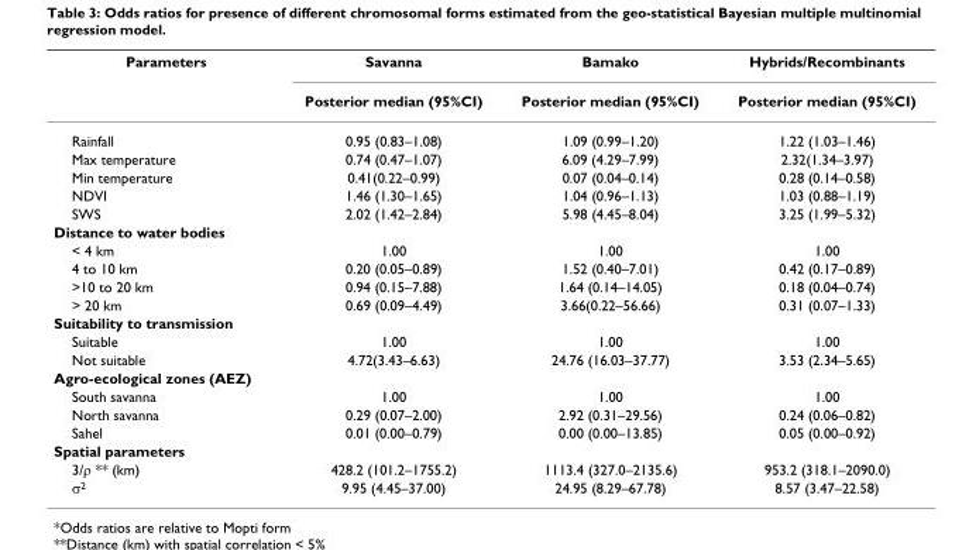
<table><thead><tr><td rowspan="2">Parameters</td><td rowspan="2">Savanna Posterior median (95%CI)</td><td rowspan="2">Bamako Posterior median (95%CI)</td><td rowspan="2">Hybrids/Recombinants Posterior median (95%CI)</td></tr><tr></tr></thead><tbody><tr><td>Rainfall</td><td>0.95 (0.83–1.08)</td><td>1.09 (0.99–1.20)</td><td>1.22 (1.03–1.46)</td></tr><tr><td>Max temperature</td><td>0.74 (0.47–1.07)</td><td>6.09 (4.29–7.99)</td><td>2.32(1.34–3.97)</td></tr><tr><td>Min temperature</td><td>0.41(0.22–0.99)</td><td>0.07 (0.04–0.14)</td><td>0.28 (0.14–0.58)</td></tr><tr><td>NDVI</td><td>1.46 (1.30–1.65)</td><td>1.04 (0.96–1.13)</td><td>1.03 (0.88–1.19)</td></tr><tr><td>SWS</td><td>2.02 (1.42–2.84)</td><td>5.98 (4.45–8.04)</td><td>3.25 (1.99–5.32)</td></tr><tr><td colspan="4">Distance to water bodies</td></tr><tr><td>&lt; 4 km</td><td>1.00</td><td>1.00</td><td>1.00</td></tr><tr><td>4 to 10 km</td><td>0.20 (0.05–0.89)</td><td>1.52 (0.40–7.01)</td><td>0.42 (0.17–0.89)</td></tr><tr><td>&gt;10 to 20 km</td><td>0.94 (0.15–7.88)</td><td>1.64 (0.14–14.05)</td><td>0.18 (0.04–0.74)</td></tr><tr><td>&gt; 20 km</td><td>0.69 (0.09–4.49)</td><td>3.66(0.22–56.66)</td><td>0.31 (0.07–1.33)</td></tr><tr><td colspan="4">Suitability to transmission</td></tr><tr><td>Suitable</td><td>1.00</td><td>1.00</td><td>1.00</td></tr><tr><td>Not suitable</td><td>4.72(3.43–6.63)</td><td>24.76 (16.03–37.77)</td><td>3.53 (2.34–5.65)</td></tr><tr><td colspan="4">Agro-ecological zones (AEZ)</td></tr><tr><td>South savanna</td><td>1.00</td><td>1.00</td><td>1.00</td></tr><tr><td>North savanna</td><td>0.29 (0.07–2.00)</td><td>2.92 (0.31–29.56)</td><td>0.24 (0.06–0.82)</td></tr><tr><td>Sahel</td><td>0.01 (0.00–0.79)</td><td>0.00 (0.00–13.85)</td><td>0.05 (0.00–0.92)</td></tr><tr><td colspan="4">Spatial parameters</td></tr><tr><td>3/ρ ** (km)</td><td>428.2 (101.2–1755.2)</td><td>1113.4 (327.0–2135.6)</td><td>953.2 (318.1–2090.0)</td></tr><tr><td>σ<sup>2</sup></td><td>9.95 (4.45–37.00)</td><td>24.95 (8.29–67.78)</td><td>8.57 (3.47–22.58)</td></tr></tbody></table>